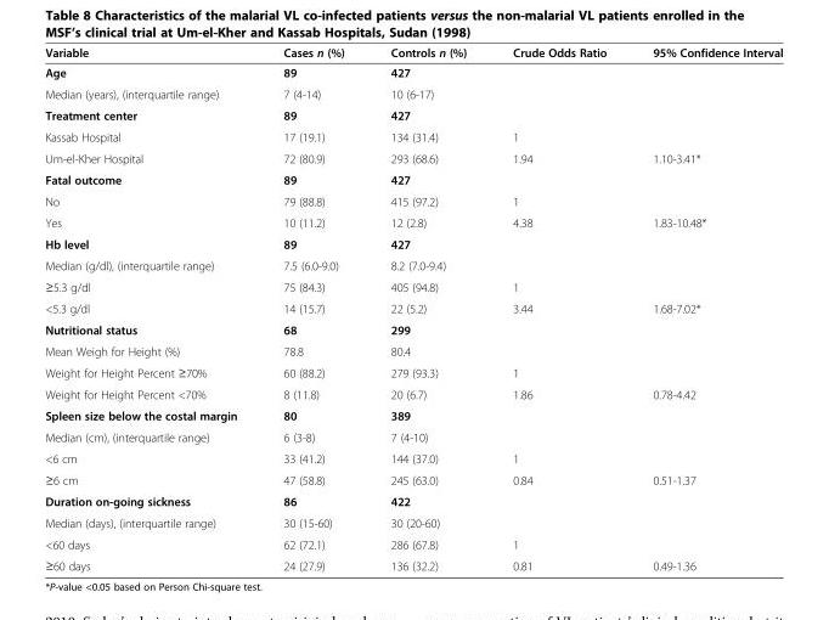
<table><thead><tr><td>Variable</td><td>Cases n (%)</td><td>Controls n (%)</td><td>Crude Odds Ratio</td><td>95% Confidence Interval</td></tr></thead><tbody><tr><td>Age</td><td>89</td><td>427</td><td></td><td></td></tr><tr><td>Median (years), (interquartile range)</td><td>7 (4-14)</td><td>10 (6-17)</td><td></td><td></td></tr><tr><td>Treatment center</td><td>89</td><td>427</td><td></td><td></td></tr><tr><td>Kassab Hospital</td><td>17 (19.1)</td><td>134 (31.4)</td><td>1</td><td></td></tr><tr><td>Um-el-Kher Hospital</td><td>72 (80.9)</td><td>293 (68.6)</td><td>1.94</td><td>1.10-3.41*</td></tr><tr><td>Fatal outcome</td><td>89</td><td>427</td><td></td><td></td></tr><tr><td>No</td><td>79 (88.8)</td><td>415 (97.2)</td><td>1</td><td></td></tr><tr><td>Yes</td><td>10 (11.2)</td><td>12 (2.8)</td><td>4.38</td><td>1.83-10.48*</td></tr><tr><td>Hb level</td><td>89</td><td>427</td><td></td><td></td></tr><tr><td>Median (g/dl), (interquartile range)</td><td>7.5 (6.0-9.0)</td><td>8.2 (7.0-9.4)</td><td></td><td></td></tr><tr><td>≥5.3 g/dl</td><td>75 (84.3)</td><td>405 (94.8)</td><td>1</td><td></td></tr><tr><td>&lt;5.3 g/dl</td><td>14 (15.7)</td><td>22 (5.2)</td><td>3.44</td><td>1.68-7.02*</td></tr><tr><td>Nutritional status</td><td>68</td><td>299</td><td></td><td></td></tr><tr><td>Mean Weigh for Height (%)</td><td>78.8</td><td>80.4</td><td></td><td></td></tr><tr><td>Weight for Height Percent ≥70%</td><td>60 (88.2)</td><td>279 (93.3)</td><td>1</td><td></td></tr><tr><td>Weight for Height Percent &lt;70%</td><td>8 (11.8)</td><td>20 (6.7)</td><td>1.86</td><td>0.78-4.42</td></tr><tr><td>Spleen size below the costal margin</td><td>80</td><td>389</td><td></td><td></td></tr><tr><td>Median (cm), (interquartile range)</td><td>6 (3-8)</td><td>7 (4-10)</td><td></td><td></td></tr><tr><td>&lt;6 cm</td><td>33 (41.2)</td><td>144 (37.0)</td><td>1</td><td></td></tr><tr><td>≥6 cm</td><td>47 (58.8)</td><td>245 (63.0)</td><td>0.84</td><td>0.51-1.37</td></tr><tr><td>Duration on-going sickness</td><td>86</td><td>422</td><td></td><td></td></tr><tr><td>Median (days), (interquartile range)</td><td>30 (15-60)</td><td>30 (20-60)</td><td></td><td></td></tr><tr><td>&lt;60 days</td><td>62 (72.1)</td><td>286 (67.8)</td><td>1</td><td></td></tr><tr><td>≥60 days</td><td>24 (27.9)</td><td>136 (32.2)</td><td>0.81</td><td>0.49-1.36</td></tr></tbody></table>